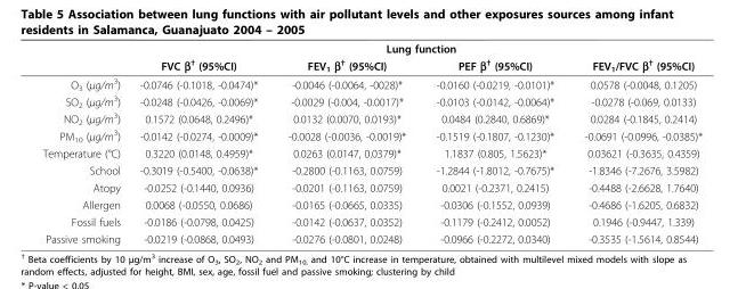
<table><thead><tr><td rowspan="2"></td><td colspan="4">Lung function</td></tr><tr><td>FVC β<sup>†</sup> (95%CI)</td><td>FEV<sub>1</sub> β<sup>†</sup> (95%CI)</td><td>PEF β<sup>†</sup> (95%CI)</td><td>FEV<sub>1</sub>/FVC β<sup>†</sup> (95%CI)</td></tr></thead><tbody><tr><td>O<sub>3</sub> (μg/m<sup>3</sup>)</td><td>-0.0746 (-0.1018, -0.0474)*</td><td>-0.0046 (-0.0064, -0028)*</td><td>-0.0160 (-0.0219, -0.0101)*</td><td>0.0578 (-0.0048, 0.1205)</td></tr><tr><td>SO<sub>2</sub> (μg/m<sup>3</sup>)</td><td>-0.0248 (-0.0426, -0.0069)*</td><td>-0.0029 (-0.004, -0.0017)*</td><td>-0.0103 (-0.0142, -0.0064)*</td><td>-0.0278 (-0.069, 0.0133)</td></tr><tr><td>NO<sub>2</sub> (μg/m<sup>3</sup>)</td><td>0.1572 (0.0648, 0.2496)*</td><td>0.0132 (0.0070, 0.0193)*</td><td>0.0484 (0.2840, 0.6869)*</td><td>0.0284 (-0.1845, 0.2414)</td></tr><tr><td>PM<sub>10</sub> (μg/m<sup>3</sup>)</td><td>-0.0142 (-0.0274, -0.0009)*</td><td>-0.0028 (-0.0036, -0.0019)*</td><td>-0.1519 (-0.1807, -0.1230)*</td><td>-0.0691 (-0.0996, -0.0385)*</td></tr><tr><td>Temperature (°C)</td><td>0.3220 (0.0148, 0.4959)*</td><td>0.0263 (0.0147, 0.0379)*</td><td>1.1837 (0.805, 1.5623)*</td><td>0.03621 (-0.3635, 0.4359)</td></tr><tr><td>School</td><td>-0.3019 (-0.5400, -0.0638)*</td><td>-0.2800 (-0.1163, 0.0759)</td><td>-1.2844 (-1.8012, -0.7675)*</td><td>-1.8346 (-7.2676, 3.5982)</td></tr><tr><td>Atopy</td><td>-0.0252 (-0.1440, 0.0936)</td><td>-0.0201 (-0.1163, 0.0759)</td><td>0.0021 (-0.2371, 0.2415)</td><td>-0.4488 (-2.6628, 1.7640)</td></tr><tr><td>Allergen</td><td>0.0068 (-0.0550, 0.0686)</td><td>-0.0165 (-0.0665, 0.0335)</td><td>-0.0306 (-0.1552, 0.0939)</td><td>-0.4686 (-1.6205, 0.6832)</td></tr><tr><td>Fossil fuels</td><td>-0.0186 (-0.0798, 0.0425)</td><td>-0.0142 (-0.0637, 0.0352)</td><td>-0.1179 (-0.2412, 0.0052)</td><td>0.1946 (-0.9447, 1.339)</td></tr><tr><td>Passive smoking</td><td>-0.0219 (-0.0868, 0.0493)</td><td>-0.0276 (-0.0801, 0.0248)</td><td>-0.0966 (-0.2272, 0.0340)</td><td>-0.3535 (-1.5614, 0.8544)</td></tr></tbody></table>